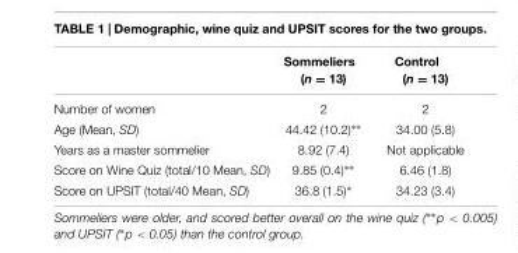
<table><thead><tr><td></td><td>Sommeliers (n = 13)</td><td>Control (n = 13)</td></tr></thead><tbody><tr><td>Number of women</td><td>2</td><td>2</td></tr><tr><td>Age (Mean, SD)</td><td>44.42 (10.2)∗∗</td><td>34.00 (5.8)</td></tr><tr><td>Years as a master sommelier</td><td>8.92 (7.4)</td><td>Not applicable</td></tr><tr><td>Score on Wine Quiz (total/10 Mean, SD)</td><td>9.85 (0.4)∗∗</td><td>6.46 (1.8)</td></tr><tr><td>Score on UPSIT (total/40 Mean, SD)</td><td>36.8 (1.5)∗</td><td>34.23 (3.4)</td></tr></tbody></table>